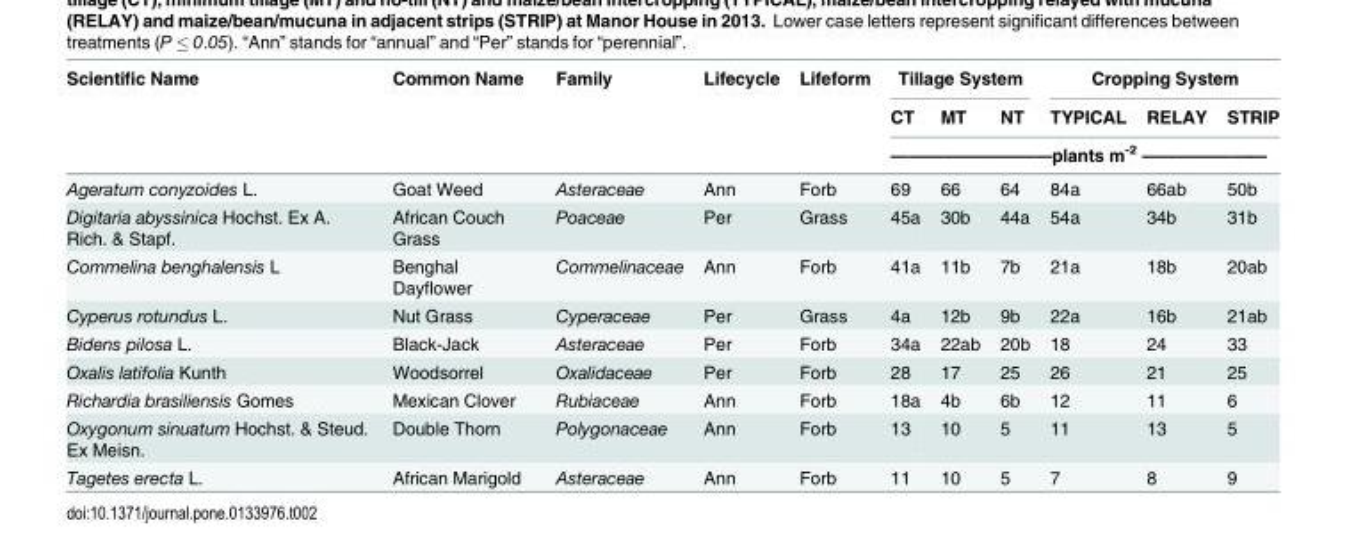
<table><thead><tr><td rowspan="3">Scientific Name</td><td rowspan="3">Common Name</td><td rowspan="3">Family</td><td rowspan="3">Lifecycle</td><td rowspan="3">Lifeform</td><td colspan="3">Tillage System</td><td colspan="3">Cropping System</td></tr><tr><td>CT</td><td>MT</td><td>NT</td><td>TYPICAL</td><td>RELAY</td><td>STRIP</td></tr><tr><td colspan="6">—————————plants m-2 ———————</td></tr></thead><tbody><tr><td>Ageratum conyzoides L.</td><td>Goat Weed</td><td>Asteraceae</td><td>Ann</td><td>Forb</td><td>69</td><td>66</td><td>64</td><td>84a</td><td>66ab</td><td>50b</td></tr><tr><td>Digitaria abyssinica Hochst. Ex A. Rich. &amp; Stapf.</td><td>African Couch Grass</td><td>Poaceae</td><td>Per</td><td>Grass</td><td>45a</td><td>30b</td><td>44a</td><td>54a</td><td>34b</td><td>31b</td></tr><tr><td>Commelina benghalensis L</td><td>Benghal Dayflower</td><td>Commelinaceae</td><td>Ann</td><td>Forb</td><td>41a</td><td>11b</td><td>7b</td><td>21a</td><td>18b</td><td>20ab</td></tr><tr><td>Cyperus rotundus L.</td><td>Nut Grass</td><td>Cyperaceae</td><td>Per</td><td>Grass</td><td>4a</td><td>12b</td><td>9b</td><td>22a</td><td>16b</td><td>21ab</td></tr><tr><td>Bidens pilosa L.</td><td>Black-Jack</td><td>Asteraceae</td><td>Per</td><td>Forb</td><td>34a</td><td>22ab</td><td>20b</td><td>18</td><td>24</td><td>33</td></tr><tr><td>Oxalis latifolia Kunth</td><td>Woodsorrel</td><td>Oxalidaceae</td><td>Per</td><td>Forb</td><td>28</td><td>17</td><td>25</td><td>26</td><td>21</td><td>25</td></tr><tr><td>Richardia brasiliensis Gomes</td><td>Mexican Clover</td><td>Rubiaceae</td><td>Ann</td><td>Forb</td><td>18a</td><td>4b</td><td>6b</td><td>12</td><td>11</td><td>6</td></tr><tr><td>Oxygonum sinuatum Hochst. &amp; Steud. Ex Meisn.</td><td>Double Thorn</td><td>Polygonaceae</td><td>Ann</td><td>Forb</td><td>13</td><td>10</td><td>5</td><td>11</td><td>13</td><td>5</td></tr><tr><td>Tagetes erecta L.</td><td>African Marigold</td><td>Asteraceae</td><td>Ann</td><td>Forb</td><td>11</td><td>10</td><td>5</td><td>7</td><td>8</td><td>9</td></tr></tbody></table>